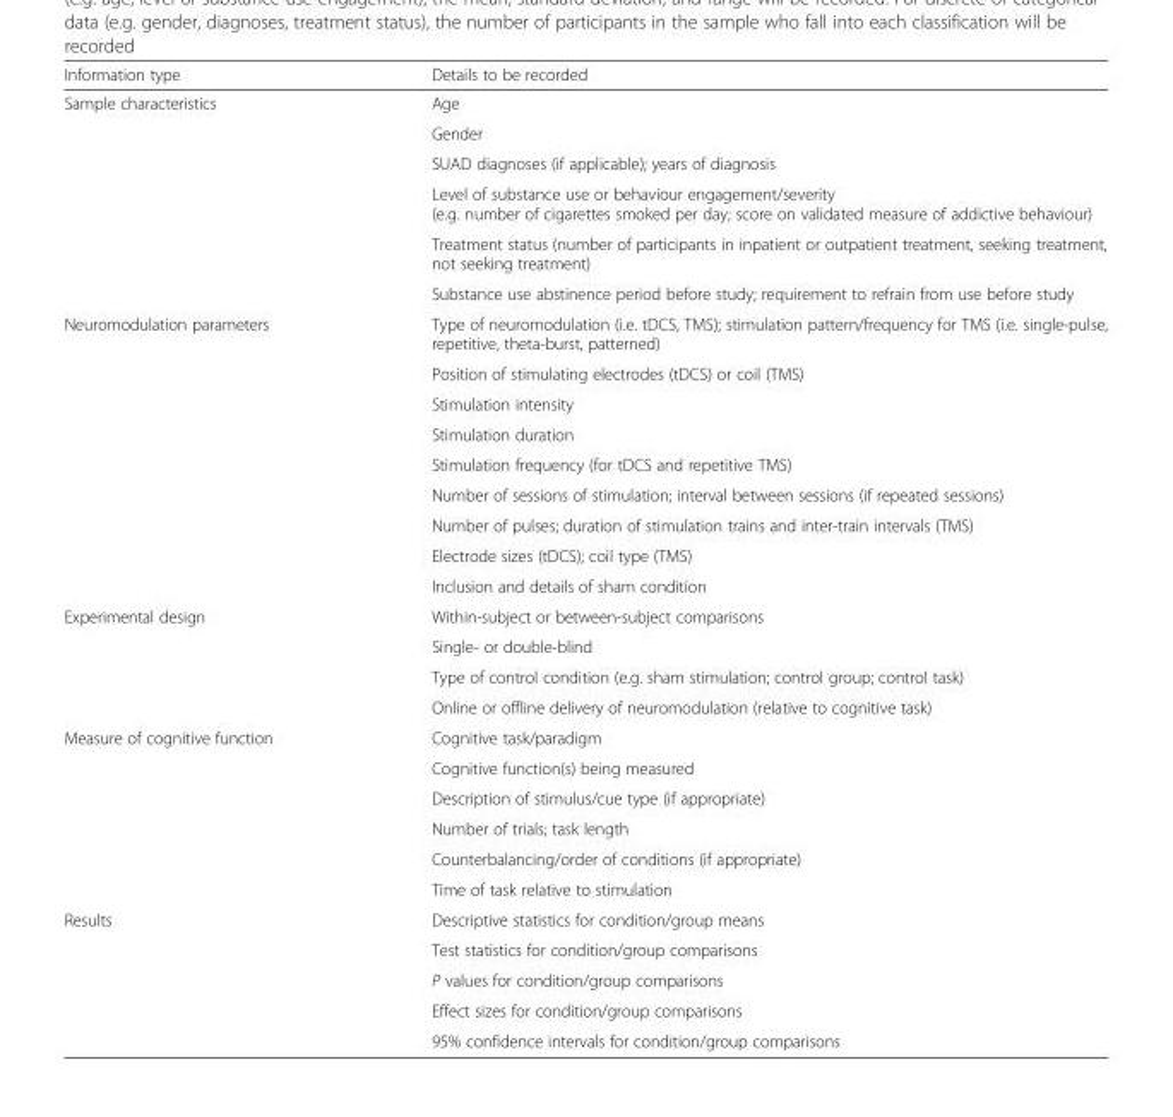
<table><thead><tr><td>Information type</td><td>Details to be recorded</td></tr></thead><tbody><tr><td rowspan="6">Sample characteristics</td><td>Age</td></tr><tr><td>Gender</td></tr><tr><td>SUAD diagnoses (if applicable); years of diagnosis</td></tr><tr><td>Level of substance use or behaviour engagement/severity (e.g. number of cigarettes smoked per day; score on validated measure of addictive behaviour)</td></tr><tr><td>Treatment status (number of participants in inpatient or outpatient treatment, seeking treatment, not seeking treatment)</td></tr><tr><td>Substance use abstinence period before study; requirement to refrain from use before study</td></tr><tr><td rowspan="9">Neuromodulation parameters</td><td>Type of neuromodulation (i.e. tDCS, TMS); stimulation pattern/frequency for TMS (i.e. single-pulse, repetitive, theta-burst, patterned)</td></tr><tr><td>Position of stimulating electrodes (tDCS) or coil (TMS)</td></tr><tr><td>Stimulation intensity</td></tr><tr><td>Stimulation duration</td></tr><tr><td>Stimulation frequency (for tDCS and repetitive TMS)</td></tr><tr><td>Number of sessions of stimulation; interval between sessions (if repeated sessions)</td></tr><tr><td>Number of pulses; duration of stimulation trains and inter-train intervals (TMS)</td></tr><tr><td>Electrode sizes (tDCS); coil type (TMS)</td></tr><tr><td>Inclusion and details of sham condition</td></tr><tr><td rowspan="4">Experimental design</td><td>Within-subject or between-subject comparisons</td></tr><tr><td>Single- or double-blind</td></tr><tr><td>Type of control condition (e.g. sham stimulation; control group; control task)</td></tr><tr><td>Online or offline delivery of neuromodulation (relative to cognitive task)</td></tr><tr><td rowspan="6">Measure of cognitive function</td><td>Cognitive task/paradigm</td></tr><tr><td>Cognitive function(s) being measured</td></tr><tr><td>Description of stimulus/cue type (if appropriate)</td></tr><tr><td>Number of trials; task length</td></tr><tr><td>Counterbalancing/order of conditions (if appropriate)</td></tr><tr><td>Time of task relative to stimulation</td></tr><tr><td rowspan="5">Results</td><td>Descriptive statistics for condition/group means</td></tr><tr><td>Test statistics for condition/group comparisons</td></tr><tr><td>P values for condition/group comparisons</td></tr><tr><td>Effect sizes for condition/group comparisons</td></tr><tr><td>95% confidence intervals for condition/group comparisons</td></tr></tbody></table>